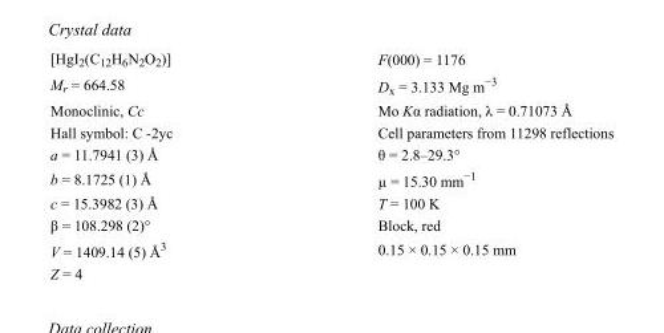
<table><tbody><tr><td>[HgI<sub>2</sub>(C<sub>12</sub>H<sub>6</sub>N<sub>2</sub>O<sub>2</sub>)]</td><td>F(000) = 1176</td></tr><tr><td>M<sub>r</sub> = 664.58</td><td>D<sub>x</sub> = 3.133 Mg m<sup>−3</sup></td></tr><tr><td>Monoclinic, Cc</td><td>Mo Kα radiation, λ = 0.71073 Å</td></tr><tr><td>Hall symbol: C -2yc</td><td>Cell parameters from 11298 reflections</td></tr><tr><td>a = 11.7941 (3) Å</td><td>θ = 2.8–29.3°</td></tr><tr><td>b = 8.1725 (1) Å</td><td>µ = 15.30 mm<sup>−1</sup></td></tr><tr><td>c = 15.3982 (3) Å</td><td>T = 100 K</td></tr><tr><td>β = 108.298 (2)°</td><td>Block, red</td></tr><tr><td>V = 1409.14 (5) Å<sup>3</sup></td><td>0.15 × 0.15 × 0.15 mm</td></tr><tr><td>Z = 4</td><td></td></tr></tbody></table>